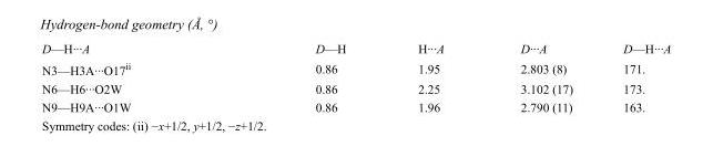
<table><tbody><tr><td>D—H···A</td><td>D—H</td><td>H···A</td><td>D···A</td><td>D—H···A</td></tr><tr><td>N3—H3A···O17<sup>ii</sup></td><td>0.86</td><td>1.95</td><td>2.803 (8)</td><td>171.</td></tr><tr><td>N6—H6···O2W</td><td>0.86</td><td>2.25</td><td>3.102 (17)</td><td>173.</td></tr><tr><td>N9—H9A···O1W</td><td>0.86</td><td>1.96</td><td>2.790 (11)</td><td>163.</td></tr></tbody></table>